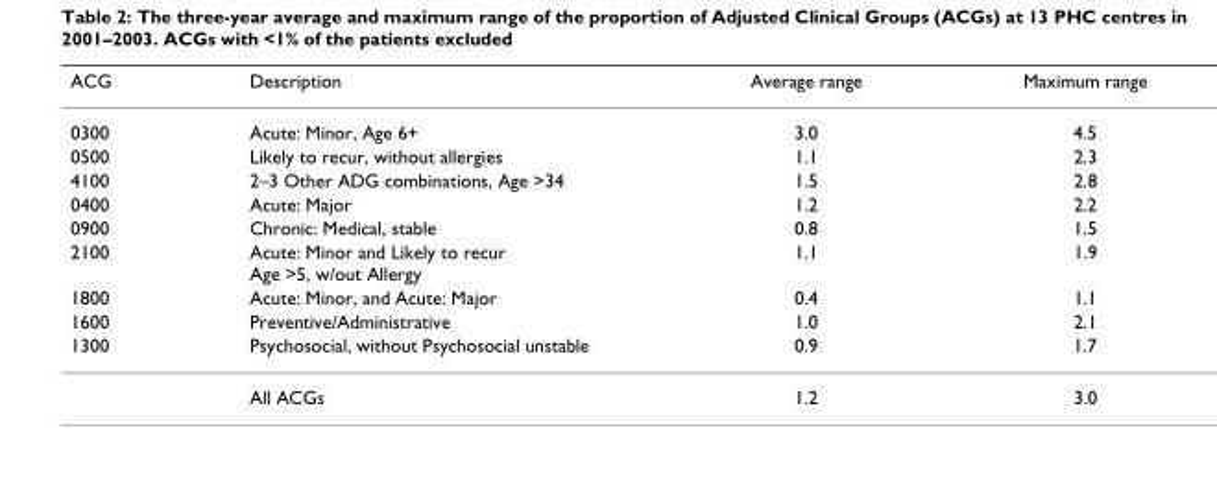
<table><thead><tr><td>ACG</td><td>Description</td><td>Average range</td><td>Maximum range</td></tr></thead><tbody><tr><td>0300</td><td>Acute: Minor, Age 6+</td><td>3.0</td><td>4.5</td></tr><tr><td>0500</td><td>Likely to recur, without allergies</td><td>1.1</td><td>2.3</td></tr><tr><td>4100</td><td>2–3 Other ADG combinations, Age &gt;34</td><td>1.5</td><td>2.8</td></tr><tr><td>0400</td><td>Acute: Major</td><td>1.2</td><td>2.2</td></tr><tr><td>0900</td><td>Chronic: Medical, stable</td><td>0.8</td><td>1.5</td></tr><tr><td>2100</td><td>Acute: Minor and Likely to recur Age &gt;5, w/out Allergy</td><td>1.1</td><td>1.9</td></tr><tr><td>1800</td><td>Acute: Minor, and Acute: Major</td><td>0.4</td><td>1.1</td></tr><tr><td>1600</td><td>Preventive/Administrative</td><td>1.0</td><td>2.1</td></tr><tr><td rowspan="2">1300</td><td>Psychosocial, without Psychosocial unstable</td><td>0.9</td><td>1.7</td></tr><tr><td>All ACGs</td><td>1.2</td><td>3.0</td></tr></tbody></table>